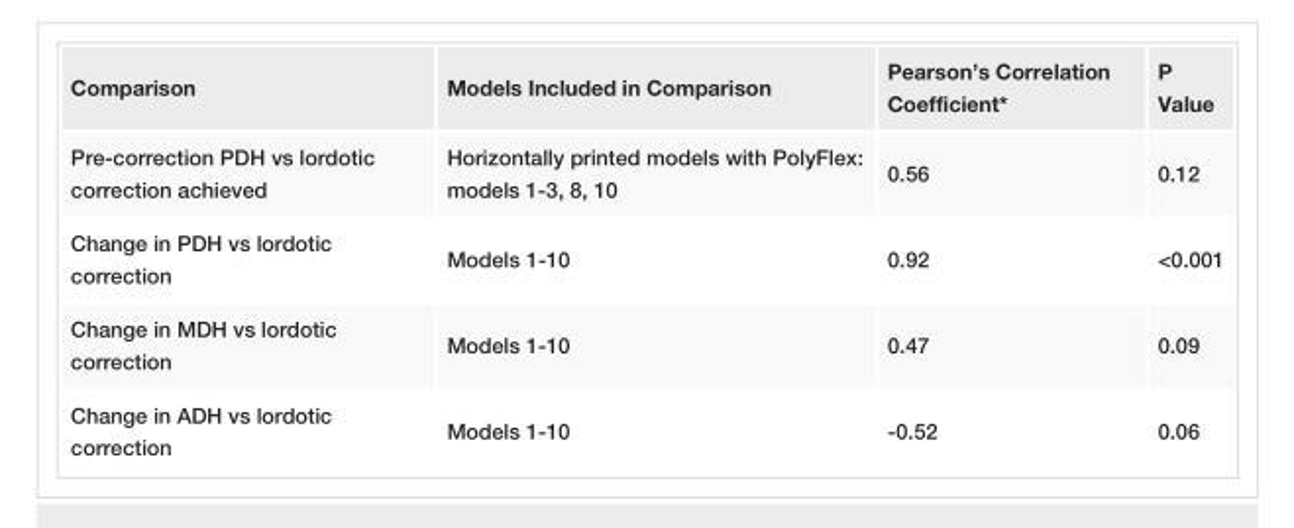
<table><tbody><tr><td>Comparison</td><td>Models Included in Comparison</td><td>Pearson’s Correlation Coefficient*</td><td>P Value</td></tr><tr><td>Pre-correction PDH vs lordotic correction achieved</td><td>Horizontally printed models with PolyFlex: models 1-3, 8, 10</td><td>0.56</td><td>0.12</td></tr><tr><td>Change in PDH vs lordotic correction</td><td>Models 1-10</td><td>0.92</td><td>&lt;0.001</td></tr><tr><td>Change in MDH vs lordotic correction</td><td>Models 1-10</td><td>0.47</td><td>0.09</td></tr><tr><td>Change in ADH vs lordotic correction</td><td>Models 1-10</td><td>-0.52</td><td>0.06</td></tr></tbody></table>